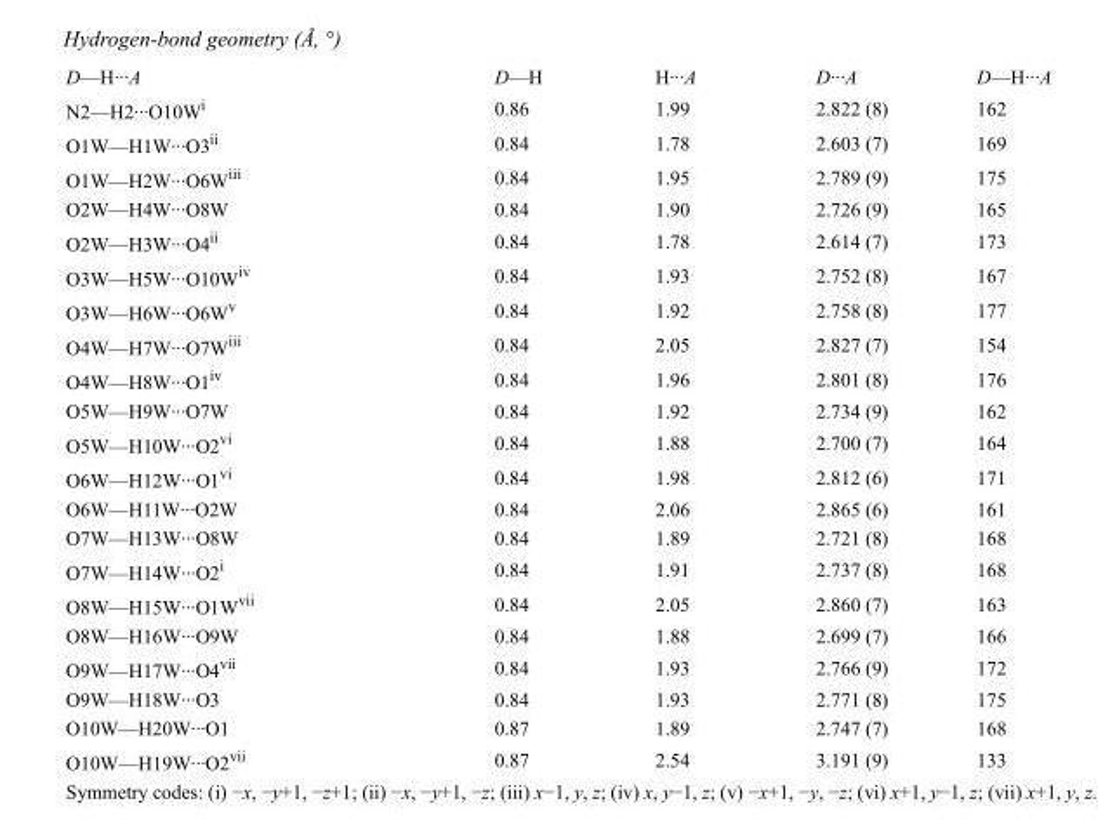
<table><tbody><tr><td>D—H···A</td><td>D—H</td><td>H···A</td><td>D···A</td><td>D—H···A</td></tr><tr><td>N2—H2···O10W<sup>i</sup></td><td>0.86</td><td>1.99</td><td>2.822 (8)</td><td>162</td></tr><tr><td>O1W—H1W···O3<sup>ii</sup></td><td>0.84</td><td>1.78</td><td>2.603 (7)</td><td>169</td></tr><tr><td>O1W—H2W···O6W<sup>iii</sup></td><td>0.84</td><td>1.95</td><td>2.789 (9)</td><td>175</td></tr><tr><td>O2W—H4W···O8W</td><td>0.84</td><td>1.90</td><td>2.726 (9)</td><td>165</td></tr><tr><td>O2W—H3W···O4<sup>ii</sup></td><td>0.84</td><td>1.78</td><td>2.614 (7)</td><td>173</td></tr><tr><td>O3W—H5W···O10W<sup>iv</sup></td><td>0.84</td><td>1.93</td><td>2.752 (8)</td><td>167</td></tr><tr><td>O3W—H6W···O6W<sup>v</sup></td><td>0.84</td><td>1.92</td><td>2.758 (8)</td><td>177</td></tr><tr><td>O4W—H7W···O7W<sup>iii</sup></td><td>0.84</td><td>2.05</td><td>2.827 (7)</td><td>154</td></tr><tr><td>O4W—H8W···O1<sup>iv</sup></td><td>0.84</td><td>1.96</td><td>2.801 (8)</td><td>176</td></tr><tr><td>O5W—H9W···O7W</td><td>0.84</td><td>1.92</td><td>2.734 (9)</td><td>162</td></tr><tr><td>O5W—H10W···O2<sup>vi</sup></td><td>0.84</td><td>1.88</td><td>2.700 (7)</td><td>164</td></tr><tr><td>O6W—H12W···O1<sup>vi</sup></td><td>0.84</td><td>1.98</td><td>2.812 (6)</td><td>171</td></tr><tr><td>O6W—H11W···O2W</td><td>0.84</td><td>2.06</td><td>2.865 (6)</td><td>161</td></tr><tr><td>O7W—H13W···O8W</td><td>0.84</td><td>1.89</td><td>2.721 (8)</td><td>168</td></tr><tr><td>O7W—H14W···O2<sup>i</sup></td><td>0.84</td><td>1.91</td><td>2.737 (8)</td><td>168</td></tr><tr><td>O8W—H15W···O1W<sup>vii</sup></td><td>0.84</td><td>2.05</td><td>2.860 (7)</td><td>163</td></tr><tr><td>O8W—H16W···O9W</td><td>0.84</td><td>1.88</td><td>2.699 (7)</td><td>166</td></tr><tr><td>O9W—H17W···O4<sup>vii</sup></td><td>0.84</td><td>1.93</td><td>2.766 (9)</td><td>172</td></tr><tr><td>O9W—H18W···O3</td><td>0.84</td><td>1.93</td><td>2.771 (8)</td><td>175</td></tr><tr><td>O10W—H20W···O1</td><td>0.87</td><td>1.89</td><td>2.747 (7)</td><td>168</td></tr><tr><td>O10W—H19W···O2<sup>vii</sup></td><td>0.87</td><td>2.54</td><td>3.191 (9)</td><td>133</td></tr></tbody></table>